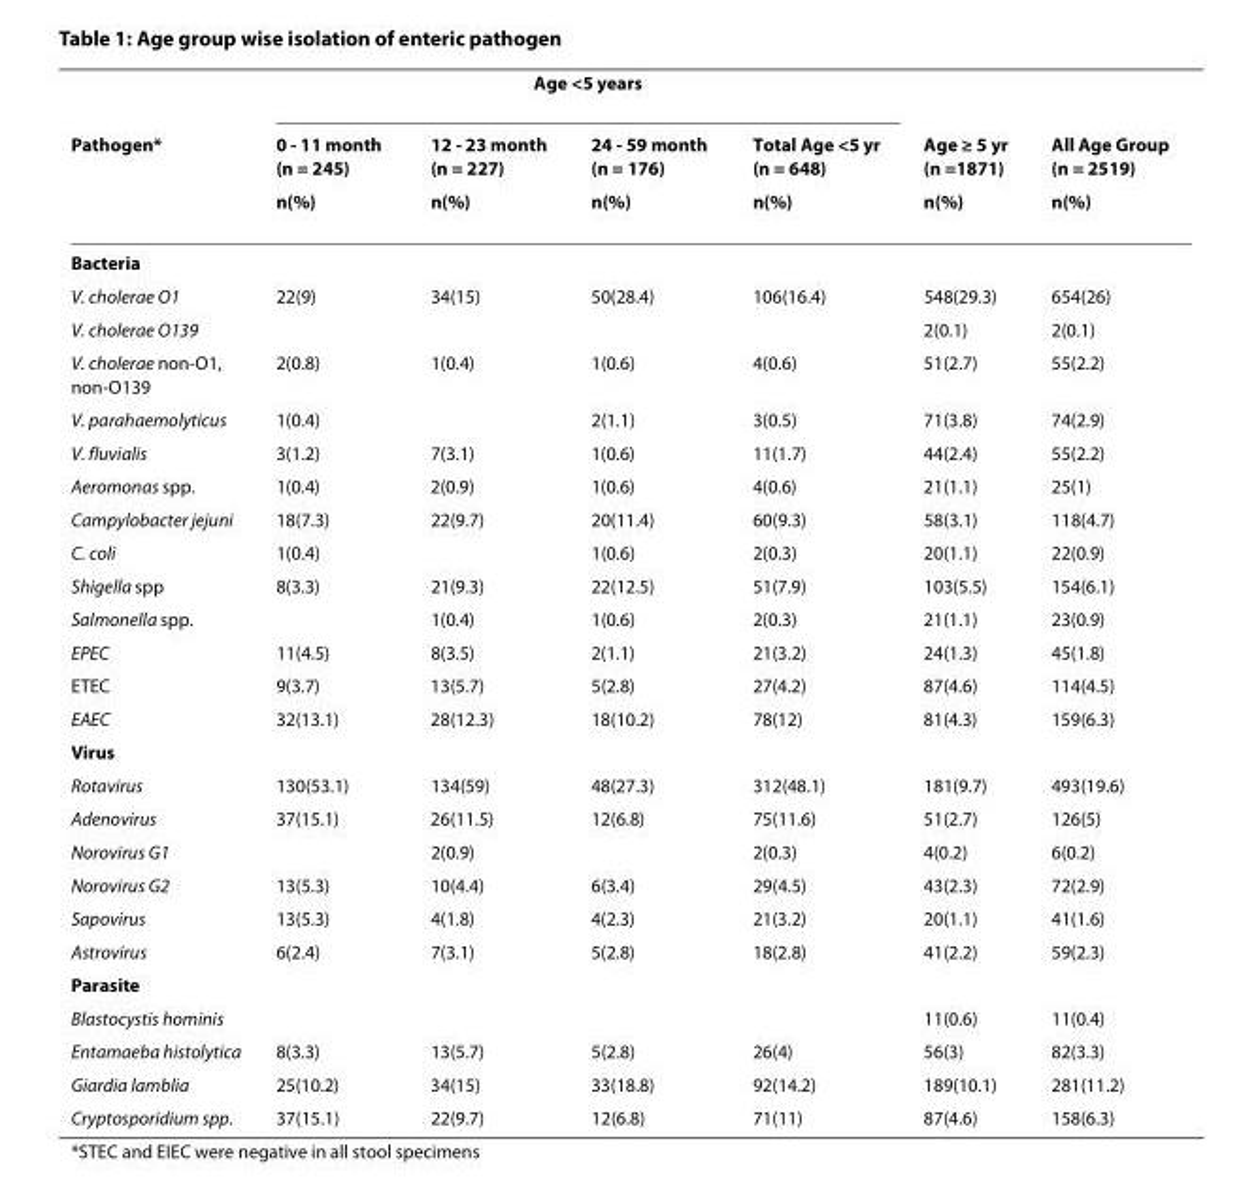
<table><thead><tr><td rowspan="3">Pathogen*</td><td colspan="4">Age &lt;5 years</td><td rowspan="3">Age ≥ 5 yr (n =1871) n(%)</td><td rowspan="3">All Age Group (n = 2519) n(%)</td></tr><tr><td rowspan="2">0 - 11 month (n = 245) n(%)</td><td rowspan="2">12 - 23 month (n = 227) n(%)</td><td rowspan="2">24 - 59 month (n = 176) n(%)</td><td rowspan="2">Total Age &lt;5 yr (n = 648) n(%)</td></tr><tr></tr></thead><tbody><tr><td colspan="7">Bacteria</td></tr><tr><td>V. cholerae O1</td><td>22(9)</td><td>34(15)</td><td>50(28.4)</td><td>106(16.4)</td><td>548(29.3)</td><td>654(26)</td></tr><tr><td>V. cholerae O139</td><td></td><td></td><td></td><td></td><td>2(0.1)</td><td>2(0.1)</td></tr><tr><td>V. cholerae non-O1, non-O139</td><td>2(0.8)</td><td>1(0.4)</td><td>1(0.6)</td><td>4(0.6)</td><td>51(2.7)</td><td>55(2.2)</td></tr><tr><td>V. parahaemolyticus</td><td>1(0.4)</td><td></td><td>2(1.1)</td><td>3(0.5)</td><td>71(3.8)</td><td>74(2.9)</td></tr><tr><td>V. fluvialis</td><td>3(1.2)</td><td>7(3.1)</td><td>1(0.6)</td><td>11(1.7)</td><td>44(2.4)</td><td>55(2.2)</td></tr><tr><td>Aeromonas spp.</td><td>1(0.4)</td><td>2(0.9)</td><td>1(0.6)</td><td>4(0.6)</td><td>21(1.1)</td><td>25(1)</td></tr><tr><td>Campylobacter jejuni</td><td>18(7.3)</td><td>22(9.7)</td><td>20(11.4)</td><td>60(9.3)</td><td>58(3.1)</td><td>118(4.7)</td></tr><tr><td>C. coli</td><td>1(0.4)</td><td></td><td>1(0.6)</td><td>2(0.3)</td><td>20(1.1)</td><td>22(0.9)</td></tr><tr><td>Shigella spp</td><td>8(3.3)</td><td>21(9.3)</td><td>22(12.5)</td><td>51(7.9)</td><td>103(5.5)</td><td>154(6.1)</td></tr><tr><td>Salmonella spp.</td><td></td><td>1(0.4)</td><td>1(0.6)</td><td>2(0.3)</td><td>21(1.1)</td><td>23(0.9)</td></tr><tr><td>EPEC</td><td>11(4.5)</td><td>8(3.5)</td><td>2(1.1)</td><td>21(3.2)</td><td>24(1.3)</td><td>45(1.8)</td></tr><tr><td>ETEC</td><td>9(3.7)</td><td>13(5.7)</td><td>5(2.8)</td><td>27(4.2)</td><td>87(4.6)</td><td>114(4.5)</td></tr><tr><td>EAEC</td><td>32(13.1)</td><td>28(12.3)</td><td>18(10.2)</td><td>78(12)</td><td>81(4.3)</td><td>159(6.3)</td></tr><tr><td colspan="7">Virus</td></tr><tr><td>Rotavirus</td><td>130(53.1)</td><td>134(59)</td><td>48(27.3)</td><td>312(48.1)</td><td>181(9.7)</td><td>493(19.6)</td></tr><tr><td>Adenovirus</td><td>37(15.1)</td><td>26(11.5)</td><td>12(6.8)</td><td>75(11.6)</td><td>51(2.7)</td><td>126(5)</td></tr><tr><td>Norovirus G1</td><td></td><td>2(0.9)</td><td></td><td>2(0.3)</td><td>4(0.2)</td><td>6(0.2)</td></tr><tr><td>Norovirus G2</td><td>13(5.3)</td><td>10(4.4)</td><td>6(3.4)</td><td>29(4.5)</td><td>43(2.3)</td><td>72(2.9)</td></tr><tr><td>Sapovirus</td><td>13(5.3)</td><td>4(1.8)</td><td>4(2.3)</td><td>21(3.2)</td><td>20(1.1)</td><td>41(1.6)</td></tr><tr><td>Astrovirus</td><td>6(2.4)</td><td>7(3.1)</td><td>5(2.8)</td><td>18(2.8)</td><td>41(2.2)</td><td>59(2.3)</td></tr><tr><td colspan="7">Parasite</td></tr><tr><td>Blastocystis hominis</td><td></td><td></td><td></td><td></td><td>11(0.6)</td><td>11(0.4)</td></tr><tr><td>Entamaeba histolytica</td><td>8(3.3)</td><td>13(5.7)</td><td>5(2.8)</td><td>26(4)</td><td>56(3)</td><td>82(3.3)</td></tr><tr><td>Giardia lamblia</td><td>25(10.2)</td><td>34(15)</td><td>33(18.8)</td><td>92(14.2)</td><td>189(10.1)</td><td>281(11.2)</td></tr><tr><td>Cryptosporidium spp.</td><td>37(15.1)</td><td>22(9.7)</td><td>12(6.8)</td><td>71(11)</td><td>87(4.6)</td><td>158(6.3)</td></tr></tbody></table>